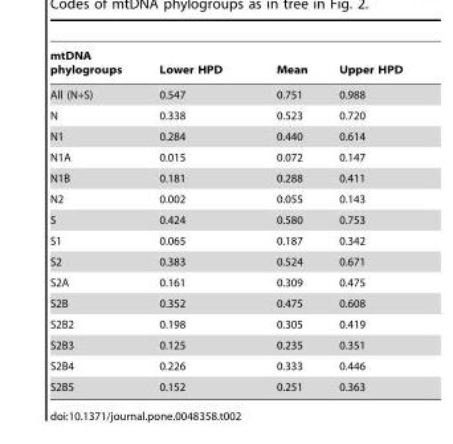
<table><thead><tr><td>mtDNA phylogroups</td><td>Lower HPD</td><td>Mean</td><td>Upper HPD</td></tr></thead><tbody><tr><td>All (N+S)</td><td>0.547</td><td>0.751</td><td>0.988</td></tr><tr><td>N</td><td>0.338</td><td>0.523</td><td>0.720</td></tr><tr><td>N1</td><td>0.284</td><td>0.440</td><td>0.614</td></tr><tr><td>N1A</td><td>0.015</td><td>0.072</td><td>0.147</td></tr><tr><td>N1B</td><td>0.181</td><td>0.288</td><td>0.411</td></tr><tr><td>N2</td><td>0.002</td><td>0.055</td><td>0.143</td></tr><tr><td>S</td><td>0.424</td><td>0.580</td><td>0.753</td></tr><tr><td>S1</td><td>0.065</td><td>0.187</td><td>0.342</td></tr><tr><td>S2</td><td>0.383</td><td>0.524</td><td>0.671</td></tr><tr><td>S2A</td><td>0.161</td><td>0.309</td><td>0.475</td></tr><tr><td>S2B</td><td>0.352</td><td>0.475</td><td>0.608</td></tr><tr><td>S2B2</td><td>0.198</td><td>0.305</td><td>0.419</td></tr><tr><td>S2B3</td><td>0.125</td><td>0.235</td><td>0.351</td></tr><tr><td>S2B4</td><td>0.226</td><td>0.333</td><td>0.446</td></tr><tr><td>S2B5</td><td>0.152</td><td>0.251</td><td>0.363</td></tr></tbody></table>